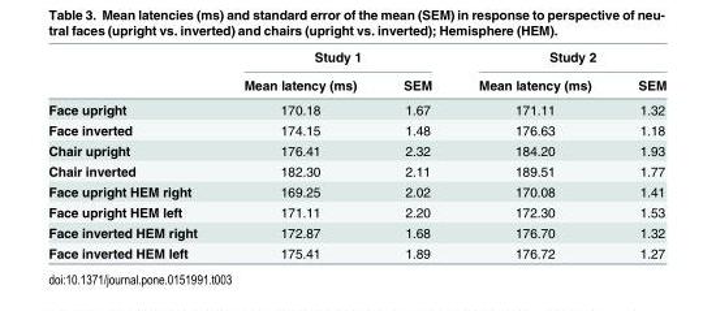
<table><thead><tr><td rowspan="2"></td><td colspan="2">Study 1</td><td colspan="2">Study 2</td></tr><tr><td>Mean latency (ms)</td><td>SEM</td><td>Mean latency (ms)</td><td>SEM</td></tr></thead><tbody><tr><td>Face upright</td><td>170.18</td><td>1.67</td><td>171.11</td><td>1.32</td></tr><tr><td>Face inverted</td><td>174.15</td><td>1.48</td><td>176.63</td><td>1.18</td></tr><tr><td>Chair upright</td><td>176.41</td><td>2.32</td><td>184.20</td><td>1.93</td></tr><tr><td>Chair inverted</td><td>182.30</td><td>2.11</td><td>189.51</td><td>1.77</td></tr><tr><td>Face upright HEM right</td><td>169.25</td><td>2.02</td><td>170.08</td><td>1.41</td></tr><tr><td>Face upright HEM left</td><td>171.11</td><td>2.20</td><td>172.30</td><td>1.53</td></tr><tr><td>Face inverted HEM right</td><td>172.87</td><td>1.68</td><td>176.70</td><td>1.32</td></tr><tr><td>Face inverted HEM left</td><td>175.41</td><td>1.89</td><td>176.72</td><td>1.27</td></tr></tbody></table>